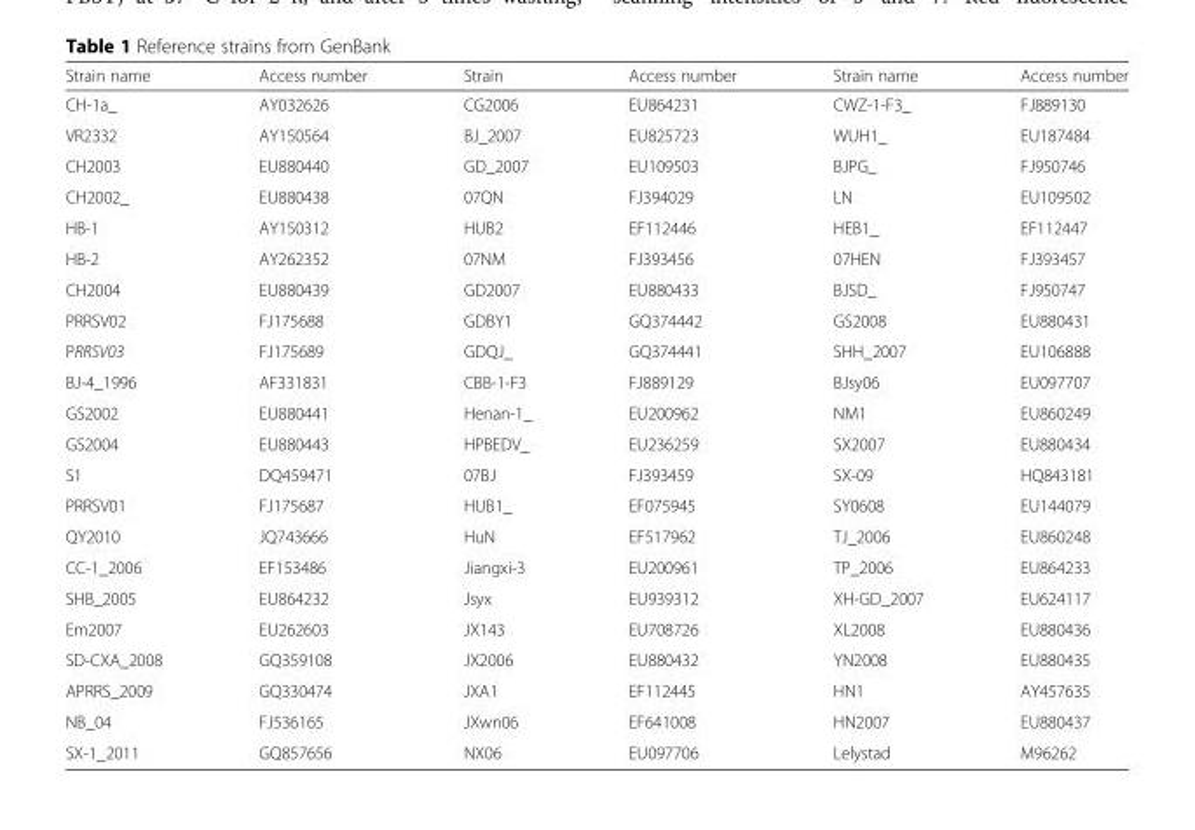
<table><thead><tr><td>Strain name</td><td>Access number</td><td>Strain</td><td>Access number</td><td>Strain name</td><td>Access number</td></tr></thead><tbody><tr><td>CH-1a_</td><td>AY032626</td><td>CG2006</td><td>EU864231</td><td>CWZ-1-F3_</td><td>FJ889130</td></tr><tr><td>VR2332</td><td>AY150564</td><td>BJ_2007</td><td>EU825723</td><td>WUH1_</td><td>EU187484</td></tr><tr><td>CH2003</td><td>EU880440</td><td>GD_2007</td><td>EU109503</td><td>BJPG_</td><td>FJ950746</td></tr><tr><td>CH2002_</td><td>EU880438</td><td>07QN</td><td>FJ394029</td><td>LN</td><td>EU109502</td></tr><tr><td>HB-1</td><td>AY150312</td><td>HUB2</td><td>EF112446</td><td>HEB1_</td><td>EF112447</td></tr><tr><td>HB-2</td><td>AY262352</td><td>07NM</td><td>FJ393456</td><td>07HEN</td><td>FJ393457</td></tr><tr><td>CH2004</td><td>EU880439</td><td>GD2007</td><td>EU880433</td><td>BJSD_</td><td>FJ950747</td></tr><tr><td>PRRSV02</td><td>FJ175688</td><td>GDBY1</td><td>GQ374442</td><td>GS2008</td><td>EU880431</td></tr><tr><td>PRRSV03</td><td>FJ175689</td><td>GDQJ_</td><td>GQ374441</td><td>SHH_2007</td><td>EU106888</td></tr><tr><td>BJ-4_1996</td><td>AF331831</td><td>CBB-1-F3</td><td>FJ889129</td><td>BJsy06</td><td>EU097707</td></tr><tr><td>GS2002</td><td>EU880441</td><td>Henan-1_</td><td>EU200962</td><td>NM1</td><td>EU860249</td></tr><tr><td>GS2004</td><td>EU880443</td><td>HPBEDV_</td><td>EU236259</td><td>SX2007</td><td>EU880434</td></tr><tr><td>S1</td><td>DQ459471</td><td>07BJ</td><td>FJ393459</td><td>SX-09</td><td>HQ843181</td></tr><tr><td>PRRSV01</td><td>FJ175687</td><td>HUB1_</td><td>EF075945</td><td>SY0608</td><td>EU144079</td></tr><tr><td>QY2010</td><td>JQ743666</td><td>HuN</td><td>EF517962</td><td>TJ_2006</td><td>EU860248</td></tr><tr><td>CC-1_2006</td><td>EF153486</td><td>Jiangxi-3</td><td>EU200961</td><td>TP_2006</td><td>EU864233</td></tr><tr><td>SHB_2005</td><td>EU864232</td><td>Jsyx</td><td>EU939312</td><td>XH-GD_2007</td><td>EU624117</td></tr><tr><td>Em2007</td><td>EU262603</td><td>JX143</td><td>EU708726</td><td>XL2008</td><td>EU880436</td></tr><tr><td>SD-CXA_2008</td><td>GQ359108</td><td>JX2006</td><td>EU880432</td><td>YN2008</td><td>EU880435</td></tr><tr><td>APRRS_2009</td><td>GQ330474</td><td>JXA1</td><td>EF112445</td><td>HN1</td><td>AY457635</td></tr><tr><td>NB_04</td><td>FJ536165</td><td>JXwn06</td><td>EF641008</td><td>HN2007</td><td>EU880437</td></tr><tr><td>SX-1_2011</td><td>GQ857656</td><td>NX06</td><td>EU097706</td><td>Lelystad</td><td>M96262</td></tr></tbody></table>